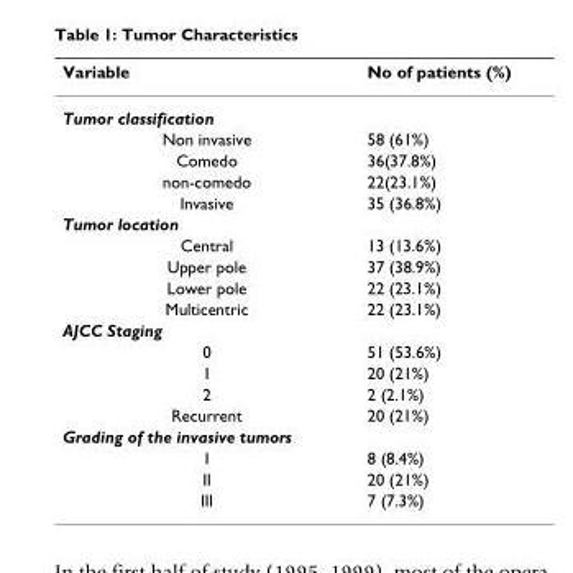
<table><thead><tr><td>Variable</td><td>No of patients (%)</td></tr></thead><tbody><tr><td colspan="2">Tumor classification</td></tr><tr><td>Non invasive</td><td>58 (61%)</td></tr><tr><td>Comedo</td><td>36(37.8%)</td></tr><tr><td>non-comedo</td><td>22(23.1%)</td></tr><tr><td>Invasive</td><td>35 (36.8%)</td></tr><tr><td colspan="2">Tumor location</td></tr><tr><td>Central</td><td>13 (13.6%)</td></tr><tr><td>Upper pole</td><td>37 (38.9%)</td></tr><tr><td>Lower pole</td><td>22 (23.1%)</td></tr><tr><td>Multicentric</td><td>22 (23.1%)</td></tr><tr><td colspan="2">AJCC Staging</td></tr><tr><td>0</td><td>51 (53.6%)</td></tr><tr><td>1</td><td>20 (21%)</td></tr><tr><td>2</td><td>2 (2.1%)</td></tr><tr><td>Recurrent</td><td>20 (21%)</td></tr><tr><td colspan="2">Grading of the invasive tumors</td></tr><tr><td>I</td><td>8 (8.4%)</td></tr><tr><td>II</td><td>20 (21%)</td></tr><tr><td>III</td><td>7 (7.3%)</td></tr></tbody></table>